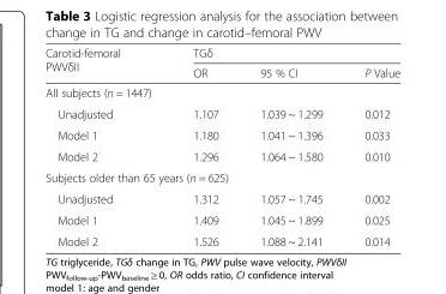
<table><thead><tr><td rowspan="2">Carotid-femoral PWVδII</td><td colspan="3">TGδ</td></tr><tr><td>OR</td><td>95 % CI</td><td>P Value</td></tr></thead><tbody><tr><td colspan="4">All subjects (n = 1447)</td></tr><tr><td>Unadjusted</td><td>1.107</td><td>1.039 ~ 1.299</td><td>0.012</td></tr><tr><td>Model 1</td><td>1.180</td><td>1.041 ~ 1.396</td><td>0.033</td></tr><tr><td>Model 2</td><td>1.296</td><td>1.064 ~ 1.580</td><td>0.010</td></tr><tr><td colspan="4">Subjects older than 65 years (n = 625)</td></tr><tr><td>Unadjusted</td><td>1.312</td><td>1.057 ~ 1.745</td><td>0.002</td></tr><tr><td>Model 1</td><td>1.409</td><td>1.045 ~ 1.899</td><td>0.025</td></tr><tr><td>Model 2</td><td>1.526</td><td>1.088 ~ 2.141</td><td>0.014</td></tr></tbody></table>